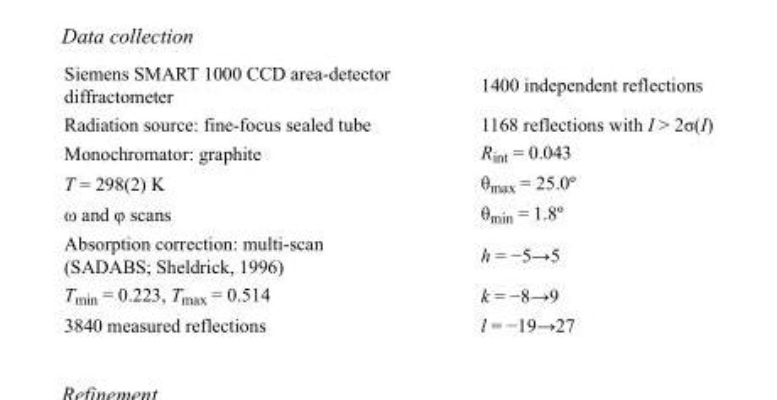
<table><tbody><tr><td>Siemens SMART 1000 CCD area-detector diffractometer</td><td>1400 independent reflections</td></tr><tr><td>Radiation source: fine-focus sealed tube</td><td>1168 reflections with I &gt; 2σ(I)</td></tr><tr><td>Monochromator: graphite</td><td>R<sub>int</sub> = 0.043</td></tr><tr><td>T = 298(2) K</td><td>θ<sub>max</sub> = 25.0º</td></tr><tr><td>ω and φ scans</td><td>θ<sub>min</sub> = 1.8º</td></tr><tr><td>Absorption correction: multi-scan (SADABS; Sheldrick, 1996)</td><td>h = −5→5</td></tr><tr><td>T<sub>min</sub> = 0.223, T<sub>max</sub> = 0.514</td><td>k = −8→9</td></tr><tr><td>3840 measured reflections</td><td>l = −19→27</td></tr></tbody></table>